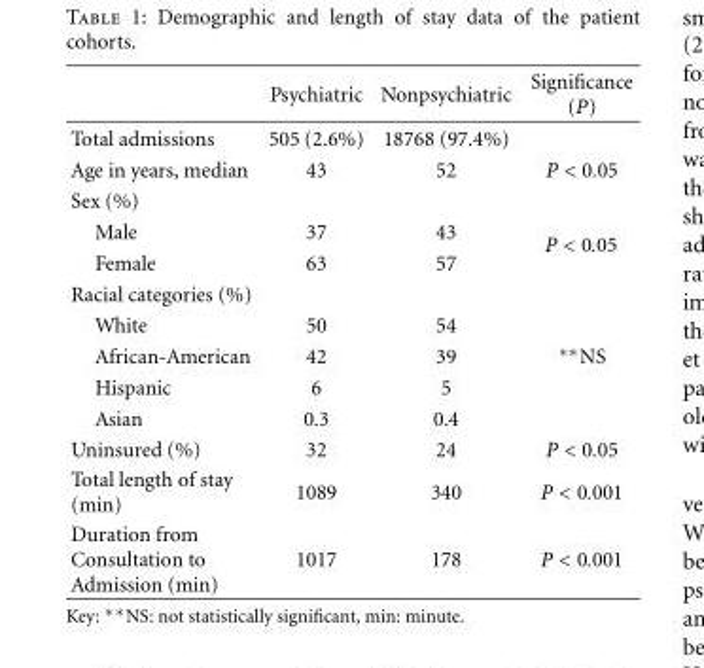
<table><thead><tr><td></td><td>Psychiatric</td><td>Nonpsychiatric</td><td>Significance (P)</td></tr></thead><tbody><tr><td>Total admissions</td><td>505 (2.6%)</td><td>18768 (97.4%)</td><td></td></tr><tr><td>Age in years, median</td><td>43</td><td>52</td><td>P &lt; 0.05</td></tr><tr><td colspan="4">Sex (%)</td></tr><tr><td>Male</td><td>37</td><td>43</td><td rowspan="2">P &lt; 0.05</td></tr><tr><td>Female</td><td>63</td><td>57</td></tr><tr><td colspan="4">Racial categories (%)</td></tr><tr><td>White</td><td>50</td><td>54</td><td></td></tr><tr><td>African-American</td><td>42</td><td>39</td><td>∗∗NS</td></tr><tr><td>Hispanic</td><td>6</td><td>5</td><td></td></tr><tr><td>Asian</td><td>0.3</td><td>0.4</td><td></td></tr><tr><td>Uninsured (%)</td><td>32</td><td>24</td><td>P &lt; 0.05</td></tr><tr><td>Total length of stay (min)</td><td>1089</td><td>340</td><td>P &lt; 0.001</td></tr><tr><td>Duration from Consultation to Admission (min)</td><td>1017</td><td>178</td><td>P &lt; 0.001</td></tr></tbody></table>